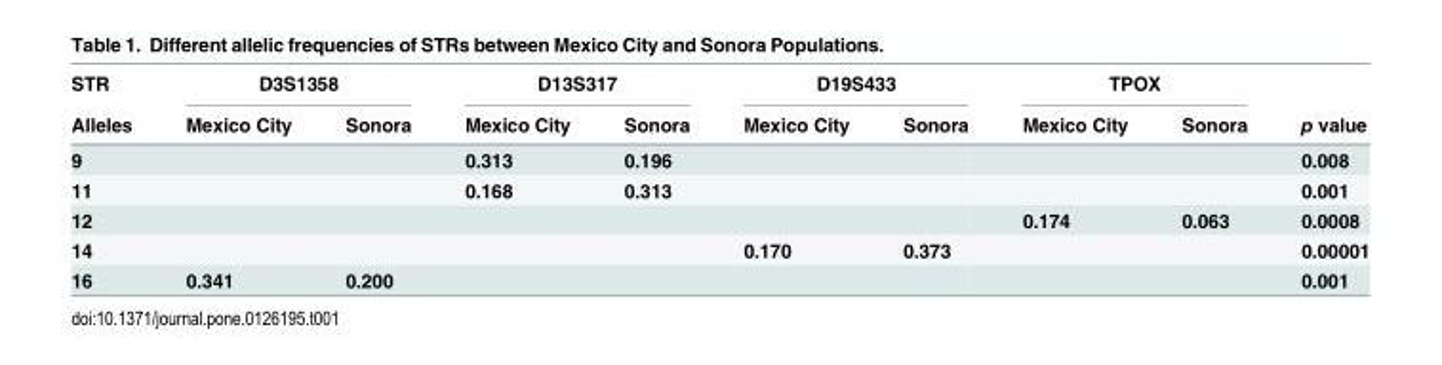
<table><thead><tr><td rowspan="2">STR Alleles</td><td colspan="2">D3S1358</td><td colspan="2">D13S317</td><td colspan="2">D19S433</td><td colspan="2">TPOX</td><td rowspan="2">p value</td></tr><tr><td>Mexico City</td><td>Sonora</td><td>Mexico City</td><td>Sonora</td><td>Mexico City</td><td>Sonora</td><td>Mexico City</td><td>Sonora</td></tr></thead><tbody><tr><td>9</td><td></td><td></td><td>0.313</td><td>0.196</td><td></td><td></td><td></td><td></td><td>0.008</td></tr><tr><td>11</td><td></td><td></td><td>0.168</td><td>0.313</td><td></td><td></td><td></td><td></td><td>0.001</td></tr><tr><td>12</td><td></td><td></td><td></td><td></td><td></td><td></td><td>0.174</td><td>0.063</td><td>0.0008</td></tr><tr><td>14</td><td></td><td></td><td></td><td></td><td>0.170</td><td>0.373</td><td></td><td></td><td>0.00001</td></tr><tr><td>16</td><td>0.341</td><td>0.200</td><td></td><td></td><td></td><td></td><td></td><td></td><td>0.001</td></tr></tbody></table>